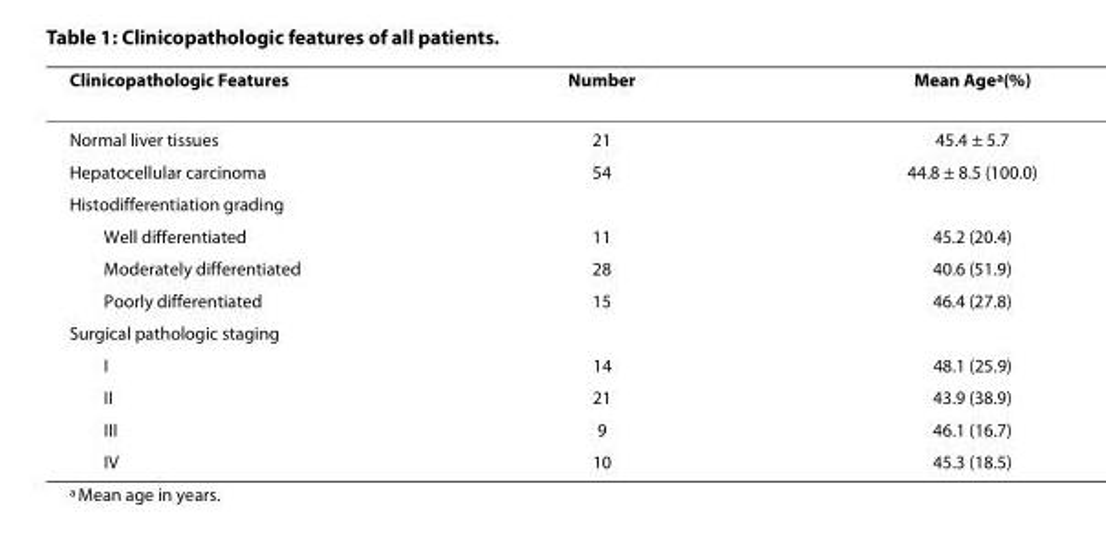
<table><thead><tr><td>Clinicopathologic Features</td><td>Number</td><td>Mean Age<sup>a</sup>(%)</td></tr></thead><tbody><tr><td>Normal liver tissues</td><td>21</td><td>45.4 ± 5.7</td></tr><tr><td>Hepatocellular carcinoma</td><td>54</td><td>44.8 ± 8.5 (100.0)</td></tr><tr><td colspan="3">Histodifferentiation grading</td></tr><tr><td>Well differentiated</td><td>11</td><td>45.2 (20.4)</td></tr><tr><td>Moderately differentiated</td><td>28</td><td>40.6 (51.9)</td></tr><tr><td>Poorly differentiated</td><td>15</td><td>46.4 (27.8)</td></tr><tr><td colspan="3">Surgical pathologic staging</td></tr><tr><td>I</td><td>14</td><td>48.1 (25.9)</td></tr><tr><td>II</td><td>21</td><td>43.9 (38.9)</td></tr><tr><td>III</td><td>9</td><td>46.1 (16.7)</td></tr><tr><td>IV</td><td>10</td><td>45.3 (18.5)</td></tr></tbody></table>